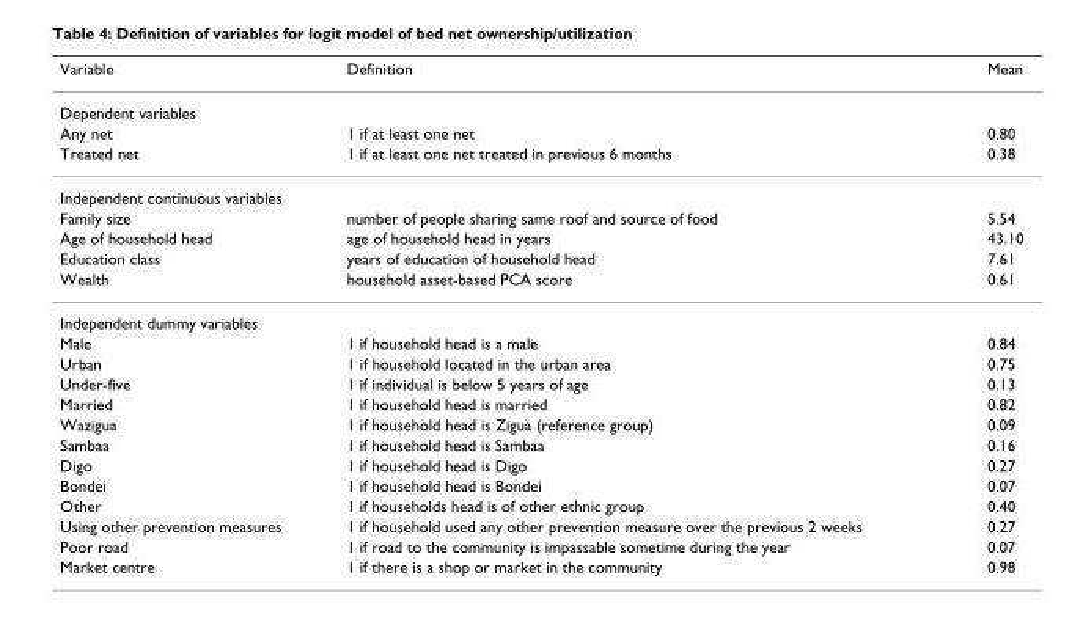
<table><thead><tr><td>Variable</td><td>Definition</td><td>Mean</td></tr></thead><tbody><tr><td colspan="3">Dependent variables</td></tr><tr><td>Any net</td><td>1 if at least one net</td><td>0.80</td></tr><tr><td>Treated net</td><td>1 if at least one net treated in previous 6 months</td><td>0.38</td></tr><tr><td colspan="3">Independent continuous variables</td></tr><tr><td>Family size</td><td>number of people sharing same roof and source of food</td><td>5.54</td></tr><tr><td>Age of household head</td><td>age of household head in years</td><td>43.10</td></tr><tr><td>Education class</td><td>years of education of household head</td><td>7.61</td></tr><tr><td>Wealth</td><td>household asset-based PCA score</td><td>0.61</td></tr><tr><td colspan="3">Independent dummy variables</td></tr><tr><td>Male</td><td>1 if household head is a male</td><td>0.84</td></tr><tr><td>Urban</td><td>1 if household located in the urban area</td><td>0.75</td></tr><tr><td>Under-five</td><td>1 if individual is below 5 years of age</td><td>0.13</td></tr><tr><td>Married</td><td>1 if household head is married</td><td>0.82</td></tr><tr><td>Wazigua</td><td>1 if household head is Zigua (reference group)</td><td>0.09</td></tr><tr><td>Sambaa</td><td>1 if household head is Sambaa</td><td>0.16</td></tr><tr><td>Digo</td><td>1 if household head is Digo</td><td>0.27</td></tr><tr><td>Bondei</td><td>1 if household head is Bondei</td><td>0.07</td></tr><tr><td>Other</td><td>1 if households head is of other ethnic group</td><td>0.40</td></tr><tr><td>Using other prevention measures</td><td>1 if household used any other prevention measure over the previous 2 weeks</td><td>0.27</td></tr><tr><td>Poor road</td><td>1 if road to the community is impassable sometime during the year</td><td>0.07</td></tr><tr><td>Market centre</td><td>1 if there is a shop or market in the community</td><td>0.98</td></tr></tbody></table>